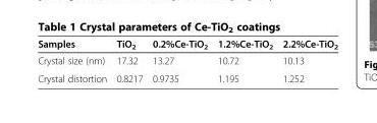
<table><thead><tr><td>Samples</td><td>TiO<sub>2</sub></td><td>0.2%Ce-TiO<sub>2</sub></td><td>1.2%Ce-TiO<sub>2</sub></td><td>2.2%Ce-TiO<sub>2</sub></td></tr></thead><tbody><tr><td>Crystal size (nm)</td><td>17.32</td><td>13.27</td><td>10.72</td><td>10.13</td></tr><tr><td>Crystal distortion</td><td>0.8217</td><td>0.9735</td><td>1.195</td><td>1.252</td></tr></tbody></table>